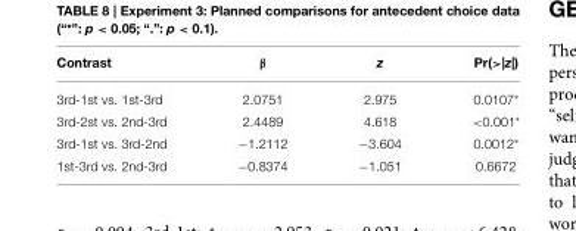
<table><thead><tr><td>Contrast</td><td>β</td><td>z</td><td>Pr(&gt;|z|)</td></tr></thead><tbody><tr><td>3rd-1st vs. 1st-3rd</td><td>2.0751</td><td>2.975</td><td>0.0107*</td></tr><tr><td>3rd-2st vs. 2nd-3rd</td><td>2.4489</td><td>4.618</td><td>&lt;0.001*</td></tr><tr><td>3rd-1st vs. 3rd-2nd</td><td>−1.2112</td><td>−3.604</td><td>0.0012*</td></tr><tr><td>1st-3rd vs. 2nd-3rd</td><td>−0.8374</td><td>−1.051</td><td>0.6672</td></tr></tbody></table>